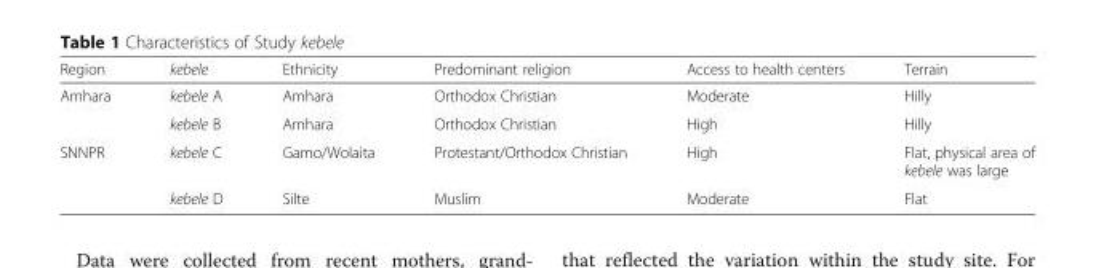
<table><thead><tr><td>Region</td><td>kebele</td><td>Ethnicity</td><td>Predominant religion</td><td>Access to health centers</td><td>Terrain</td></tr></thead><tbody><tr><td rowspan="2">Amhara</td><td>kebele A</td><td>Amhara</td><td>Orthodox Christian</td><td>Moderate</td><td>Hilly</td></tr><tr><td>kebele B</td><td>Amhara</td><td>Orthodox Christian</td><td>High</td><td>Hilly</td></tr><tr><td rowspan="2">SNNPR</td><td>kebele C</td><td>Gamo/Wolaita</td><td>Protestant/Orthodox Christian</td><td>High</td><td>Flat, physical area of kebele was large</td></tr><tr><td>kebele D</td><td>Silte</td><td>Muslim</td><td>Moderate</td><td>Flat</td></tr></tbody></table>